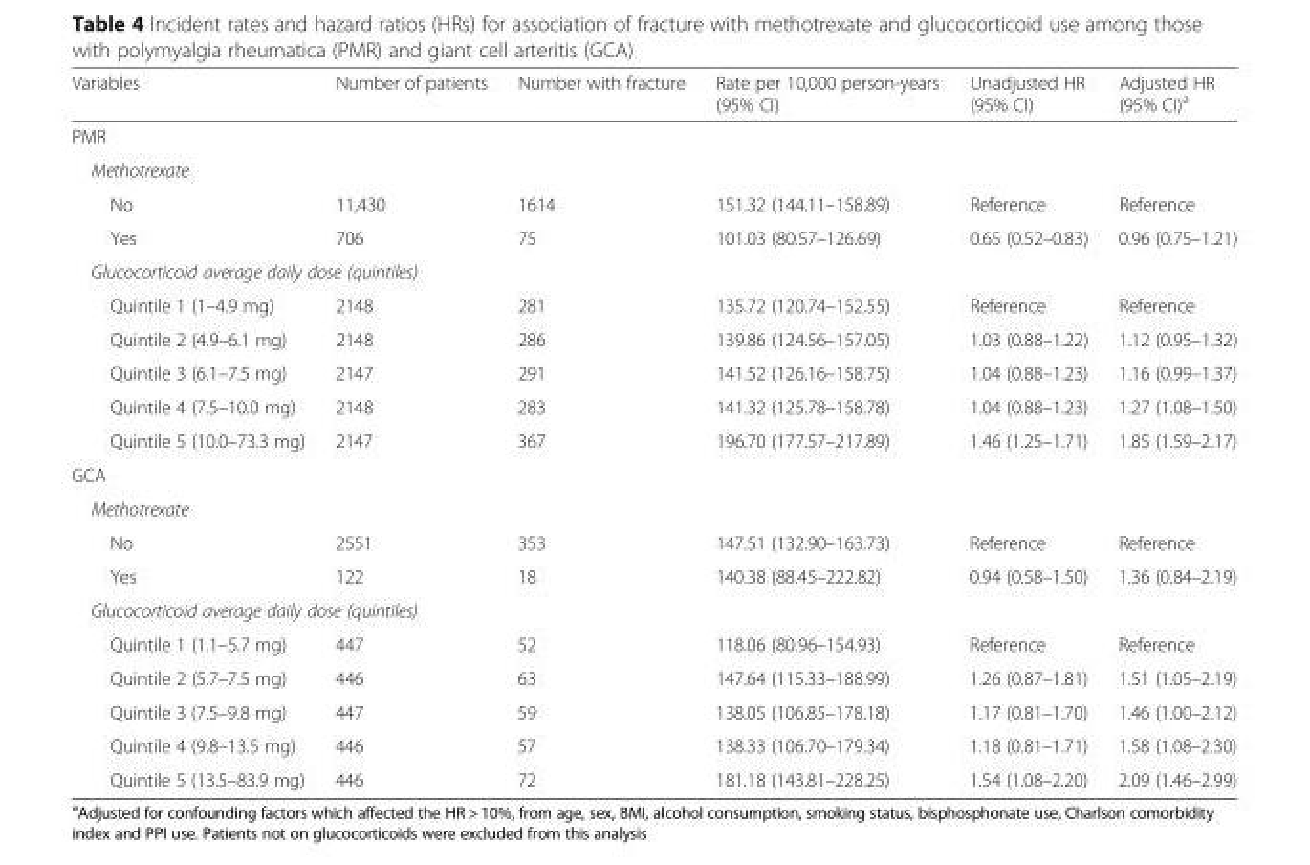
<table><thead><tr><td>Variables</td><td>Number of patients</td><td>Number with fracture</td><td>Rate per 10,000 person-years (95% CI)</td><td>Unadjusted HR (95% CI)</td><td>Adjusted HR (95% CI)<sup>a</sup></td></tr></thead><tbody><tr><td colspan="6">PMR</td></tr><tr><td colspan="6">Methotrexate</td></tr><tr><td>No</td><td>11,430</td><td>1614</td><td>151.32 (144.11–158.89)</td><td>Reference</td><td>Reference</td></tr><tr><td>Yes</td><td>706</td><td>75</td><td>101.03 (80.57–126.69)</td><td>0.65 (0.52–0.83)</td><td>0.96 (0.75–1.21)</td></tr><tr><td colspan="6">Glucocorticoid average daily dose (quintiles)</td></tr><tr><td>Quintile 1 (1–4.9 mg)</td><td>2148</td><td>281</td><td>135.72 (120.74–152.55)</td><td>Reference</td><td>Reference</td></tr><tr><td>Quintile 2 (4.9–6.1 mg)</td><td>2148</td><td>286</td><td>139.86 (124.56–157.05)</td><td>1.03 (0.88–1.22)</td><td>1.12 (0.95–1.32)</td></tr><tr><td>Quintile 3 (6.1–7.5 mg)</td><td>2147</td><td>291</td><td>141.52 (126.16–158.75)</td><td>1.04 (0.88–1.23)</td><td>1.16 (0.99–1.37)</td></tr><tr><td>Quintile 4 (7.5–10.0 mg)</td><td>2148</td><td>283</td><td>141.32 (125.78–158.78)</td><td>1.04 (0.88–1.23)</td><td>1.27 (1.08–1.50)</td></tr><tr><td>Quintile 5 (10.0–73.3 mg)</td><td>2147</td><td>367</td><td>196.70 (177.57–217.89)</td><td>1.46 (1.25–1.71)</td><td>1.85 (1.59–2.17)</td></tr><tr><td colspan="6">GCA</td></tr><tr><td colspan="6">Methotrexate</td></tr><tr><td>No</td><td>2551</td><td>353</td><td>147.51 (132.90–163.73)</td><td>Reference</td><td>Reference</td></tr><tr><td>Yes</td><td>122</td><td>18</td><td>140.38 (88.45–222.82)</td><td>0.94 (0.58–1.50)</td><td>1.36 (0.84–2.19)</td></tr><tr><td colspan="6">Glucocorticoid average daily dose (quintiles)</td></tr><tr><td>Quintile 1 (1.1–5.7 mg)</td><td>447</td><td>52</td><td>118.06 (80.96–154.93)</td><td>Reference</td><td>Reference</td></tr><tr><td>Quintile 2 (5.7–7.5 mg)</td><td>446</td><td>63</td><td>147.64 (115.33–188.99)</td><td>1.26 (0.87–1.81)</td><td>1.51 (1.05–2.19)</td></tr><tr><td>Quintile 3 (7.5–9.8 mg)</td><td>447</td><td>59</td><td>138.05 (106.85–178.18)</td><td>1.17 (0.81–1.70)</td><td>1.46 (1.00–2.12)</td></tr><tr><td>Quintile 4 (9.8–13.5 mg)</td><td>446</td><td>57</td><td>138.33 (106.70–179.34)</td><td>1.18 (0.81–1.71)</td><td>1.58 (1.08–2.30)</td></tr><tr><td>Quintile 5 (13.5–83.9 mg)</td><td>446</td><td>72</td><td>181.18 (143.81–228.25)</td><td>1.54 (1.08–2.20)</td><td>2.09 (1.46–2.99)</td></tr></tbody></table>